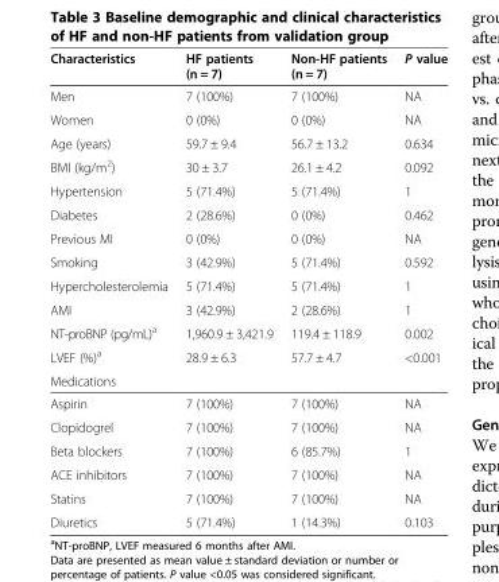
<table><thead><tr><td>Characteristics</td><td>HF patients (n = 7)</td><td>Non-HF patients (n = 7)</td><td>P value</td></tr></thead><tbody><tr><td>Men</td><td>7 (100%)</td><td>7 (100%)</td><td>NA</td></tr><tr><td>Women</td><td>0 (0%)</td><td>0 (0%)</td><td>NA</td></tr><tr><td>Age (years)</td><td>59.7 ± 9.4</td><td>56.7 ± 13.2</td><td>0.634</td></tr><tr><td>BMI (kg/m<sup>2</sup>)</td><td>30 ± 3.7</td><td>26.1 ± 4.2</td><td>0.092</td></tr><tr><td>Hypertension</td><td>5 (71.4%)</td><td>5 (71.4%)</td><td>1</td></tr><tr><td>Diabetes</td><td>2 (28.6%)</td><td>0 (0%)</td><td>0.462</td></tr><tr><td>Previous MI</td><td>0 (0%)</td><td>0 (0%)</td><td>NA</td></tr><tr><td>Smoking</td><td>3 (42.9%)</td><td>5 (71.4%)</td><td>0.592</td></tr><tr><td>Hypercholesterolemia</td><td>5 (71.4%)</td><td>5 (71.4%)</td><td>1</td></tr><tr><td>AMI</td><td>3 (42.9%)</td><td>2 (28.6%)</td><td>1</td></tr><tr><td>NT-proBNP (pg/mL)<sup>a</sup></td><td>1,960.9 ± 3,421.9</td><td>119.4 ± 118.9</td><td>0.002</td></tr><tr><td>LVEF (%)<sup>a</sup></td><td>28.9 ± 6.3</td><td>57.7 ± 4.7</td><td>&lt;0.001</td></tr><tr><td colspan="4">Medications</td></tr><tr><td>Aspirin</td><td>7 (100%)</td><td>7 (100%)</td><td>NA</td></tr><tr><td>Clopidogrel</td><td>7 (100%)</td><td>7 (100%)</td><td>NA</td></tr><tr><td>Beta blockers</td><td>7 (100%)</td><td>6 (85.7%)</td><td>1</td></tr><tr><td>ACE inhibitors</td><td>7 (100%)</td><td>7 (100%)</td><td>NA</td></tr><tr><td>Statins</td><td>7 (100%)</td><td>7 (100%)</td><td>NA</td></tr><tr><td>Diuretics</td><td>5 (71.4%)</td><td>1 (14.3%)</td><td>0.103</td></tr></tbody></table>